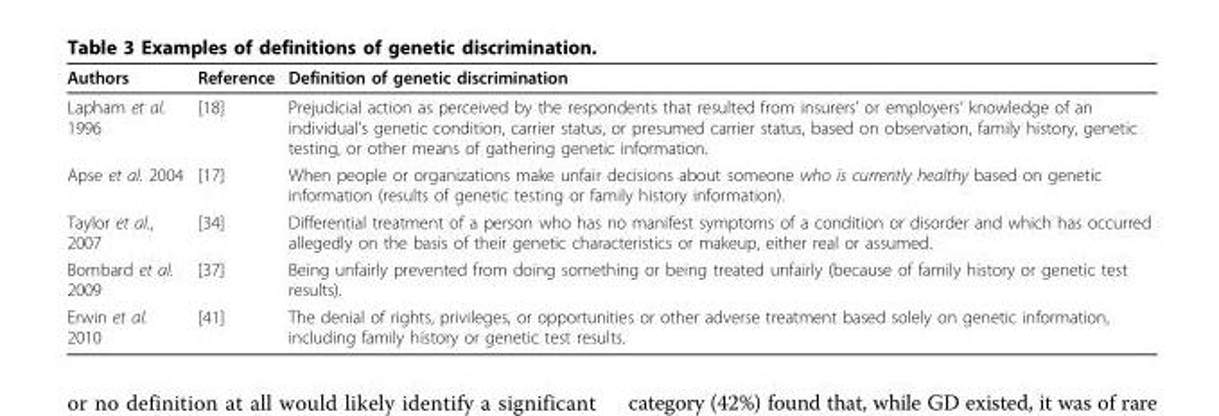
<table><thead><tr><td>Authors</td><td>Reference</td><td>Definition of genetic discrimination</td></tr></thead><tbody><tr><td>Lapham et al. 1996</td><td>[18]</td><td>Prejudicial action as perceived by the respondents that resulted from insurers’ or employers’ knowledge of an individual’s genetic condition, carrier status, or presumed carrier status, based on observation, family history, genetic testing, or other means of gathering genetic information.</td></tr><tr><td>Apse et al. 2004</td><td>[17]</td><td>When people or organizations make unfair decisions about someone who is currently healthy based on genetic information (results of genetic testing or family history information).</td></tr><tr><td>Taylor et al., 2007</td><td>[34]</td><td>Differential treatment of a person who has no manifest symptoms of a condition or disorder and which has occurred allegedly on the basis of their genetic characteristics or makeup, either real or assumed.</td></tr><tr><td>Bombard et al. 2009</td><td>[37]</td><td>Being unfairly prevented from doing something or being treated unfairly (because of family history or genetic test results).</td></tr><tr><td>Erwin et al. 2010</td><td>[41]</td><td>The denial of rights, privileges, or opportunities or other adverse treatment based solely on genetic information, including family history or genetic test results.</td></tr></tbody></table>